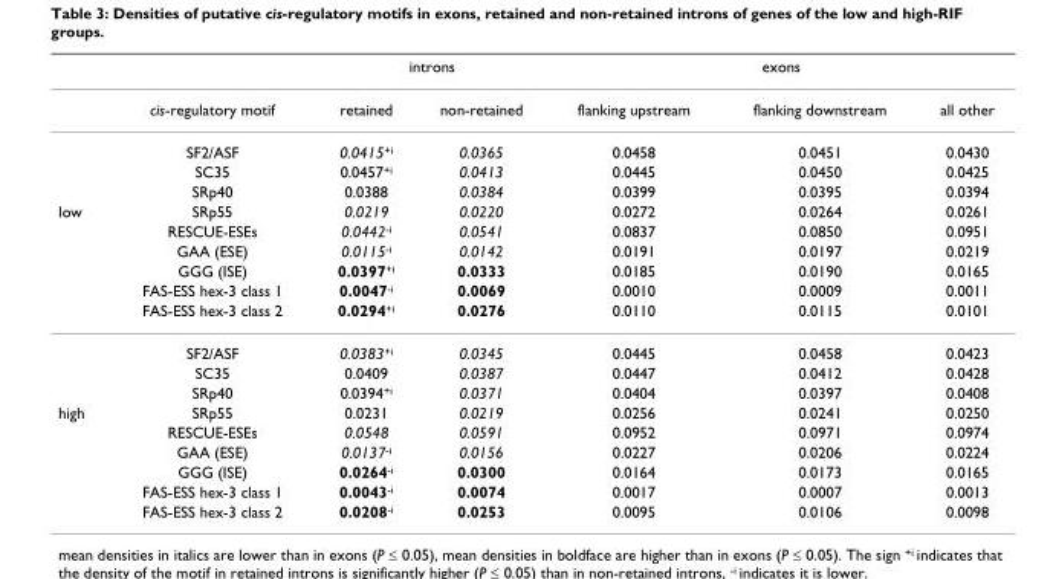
<table><thead><tr><td rowspan="2"></td><td rowspan="2">cis-regulatory motif</td><td colspan="2">introns</td><td colspan="3">exons</td></tr><tr><td>retained</td><td>non-retained</td><td>flanking upstream</td><td>flanking downstream</td><td>all other</td></tr></thead><tbody><tr><td></td><td>SF2/ASF</td><td>0.0415<sup>+i</sup></td><td>0.0365</td><td>0.0458</td><td>0.0451</td><td>0.0430</td></tr><tr><td></td><td>SC35</td><td>0.0457<sup>+i</sup></td><td>0.0413</td><td>0.0445</td><td>0.0450</td><td>0.0425</td></tr><tr><td></td><td>SRp40</td><td>0.0388</td><td>0.0384</td><td>0.0399</td><td>0.0395</td><td>0.0394</td></tr><tr><td rowspan="9">low</td><td>SRp55</td><td>0.0219</td><td>0.0220</td><td>0.0272</td><td>0.0264</td><td>0.0261</td></tr><tr><td>RESCUE-ESEs</td><td>0.0442<sup>-i</sup></td><td>0.0541</td><td>0.0837</td><td>0.0850</td><td>0.0951</td></tr><tr><td>GAA (ESE)</td><td>0.0115<sup>-i</sup></td><td>0.0142</td><td>0.0191</td><td>0.0197</td><td>0.0219</td></tr><tr><td>GGG (ISE)</td><td>0.0397<sup>+i</sup></td><td>0.0333</td><td>0.0185</td><td>0.0190</td><td>0.0165</td></tr><tr><td>FAS-ESS hex-3 class 1</td><td>0.0047<sup>-i</sup></td><td>0.0069</td><td>0.0010</td><td>0.0009</td><td>0.0011</td></tr><tr><td>FAS-ESS hex-3 class 2</td><td>0.0294<sup>+i</sup></td><td>0.0276</td><td>0.0110</td><td>0.0115</td><td>0.0101</td></tr><tr><td>SF2/ASF</td><td>0.0383<sup>+i</sup></td><td>0.0345</td><td>0.0445</td><td>0.0458</td><td>0.0423</td></tr><tr><td>SC35</td><td>0.0409</td><td>0.0387</td><td>0.0447</td><td>0.0412</td><td>0.0428</td></tr><tr><td>SRp40</td><td>0.0394<sup>+i</sup></td><td>0.0371</td><td>0.0404</td><td>0.0397</td><td>0.0408</td></tr><tr><td rowspan="6">high</td><td>SRp55</td><td>0.0231</td><td>0.0219</td><td>0.0256</td><td>0.0241</td><td>0.0250</td></tr><tr><td>RESCUE-ESEs</td><td>0.0548</td><td>0.0591</td><td>0.0952</td><td>0.0971</td><td>0.0974</td></tr><tr><td>GAA (ESE)</td><td>0.0137<sup>-i</sup></td><td>0.0156</td><td>0.0227</td><td>0.0206</td><td>0.0224</td></tr><tr><td>GGG (ISE)</td><td>0.0264<sup>-i</sup></td><td>0.0300</td><td>0.0164</td><td>0.0173</td><td>0.0165</td></tr><tr><td>FAS-ESS hex-3 class 1</td><td>0.0043<sup>-i</sup></td><td>0.0074</td><td>0.0017</td><td>0.0007</td><td>0.0013</td></tr><tr><td>FAS-ESS hex-3 class 2</td><td>0.0208<sup>-i</sup></td><td>0.0253</td><td>0.0095</td><td>0.0106</td><td>0.0098</td></tr></tbody></table>